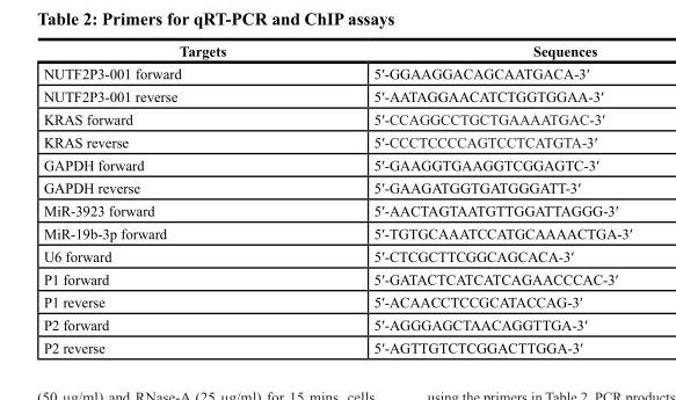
<table><thead><tr><td>Targets</td><td>Sequences</td></tr></thead><tbody><tr><td>NUTF2P3-001 forward</td><td>5′-GGAAGGACAGCAATGACA-3′</td></tr><tr><td>NUTF2P3-001 reverse</td><td>5′-AATAGGAACATCTGGTGGAA-3′</td></tr><tr><td>KRAS forward</td><td>5′-CCAGGCCTGCTGAAAATGAC-3′</td></tr><tr><td>KRAS reverse</td><td>5′-CCCTCCCCAGTCCTCATGTA-3′</td></tr><tr><td>GAPDH forward</td><td>5′-GAAGGTGAAGGTCGGAGTC-3′</td></tr><tr><td>GAPDH reverse</td><td>5′-GAAGATGGTGATGGGATT-3′</td></tr><tr><td>MiR-3923 forward</td><td>5′-AACTAGTAATGTTGGATTAGGG-3′</td></tr><tr><td>MiR-19b-3p forward</td><td>5′-TGTGCAAATCCATGCAAAACTGA-3′</td></tr><tr><td>U6 forward</td><td>5′-CTCGCTTCGGCAGCACA-3′</td></tr><tr><td>P1 forward</td><td>5′-GATACTCATCATCAGAACCCAC-3′</td></tr><tr><td>P1 reverse</td><td>5′-ACAACCTCCGCATACCAG-3′</td></tr><tr><td>P2 forward</td><td>5′-AGGGAGCTAACAGGTTGA-3′</td></tr><tr><td>P2 reverse</td><td>5′-AGTTGTCTCGGACTTGGA-3′</td></tr></tbody></table>